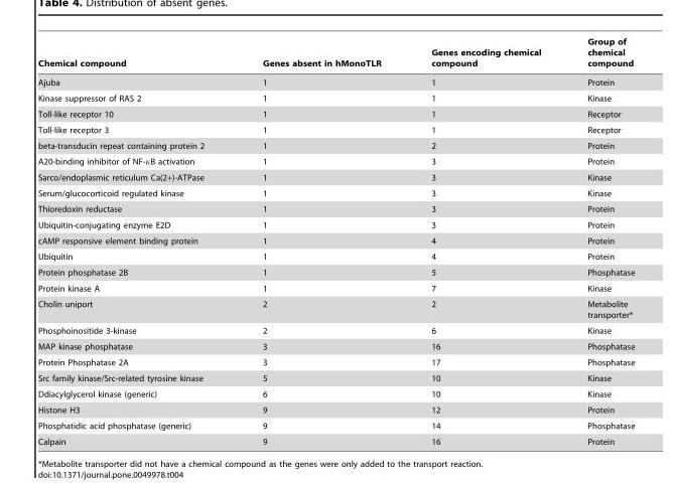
<table><thead><tr><td>Chemical compound</td><td>Genes absent in hMonoTLR</td><td>Genes encoding chemical compound</td><td>Group of chemical compound</td></tr></thead><tbody><tr><td>Ajuba</td><td>1</td><td>1</td><td>Protein</td></tr><tr><td>Kinase suppressor of RAS 2</td><td>1</td><td>1</td><td>Kinase</td></tr><tr><td>Toll-like receptor 10</td><td>1</td><td>1</td><td>Receptor</td></tr><tr><td>Toll-like receptor 3</td><td>1</td><td>1</td><td>Receptor</td></tr><tr><td>beta-transducin repeat containing protein 2</td><td>1</td><td>2</td><td>Protein</td></tr><tr><td>A20-binding inhibitor of NF-kB activation</td><td>1</td><td>3</td><td>Protein</td></tr><tr><td>Sarco/endoplasmic reticulum Ca(2+)-ATPase</td><td>1</td><td>3</td><td>Kinase</td></tr><tr><td>Serum/glucocorticoid regulated kinase</td><td>1</td><td>3</td><td>Kinase</td></tr><tr><td>Thioredoxin reductase</td><td>1</td><td>3</td><td>Protein</td></tr><tr><td>Ubiquitin-conjugating enzyme E2D</td><td>1</td><td>3</td><td>Protein</td></tr><tr><td>cAMP responsive element binding protein</td><td>1</td><td>4</td><td>Protein</td></tr><tr><td>Ubiquitin</td><td>1</td><td>4</td><td>Protein</td></tr><tr><td>Protein phosphatase 2B</td><td>1</td><td>5</td><td>Phosphatase</td></tr><tr><td>Protein kinase A</td><td>1</td><td>7</td><td>Kinase</td></tr><tr><td>Cholin uniport</td><td>2</td><td>2</td><td>Metabolite transporter*</td></tr><tr><td>Phosphoinositide 3-kinase</td><td>2</td><td>6</td><td>Kinase</td></tr><tr><td>MAP kinase phosphatase</td><td>3</td><td>16</td><td>Phosphatase</td></tr><tr><td>Protein Phosphatase 2A</td><td>3</td><td>17</td><td>Phosphatase</td></tr><tr><td>Src family kinase/Src-related tyrosine kinase</td><td>5</td><td>10</td><td>Kinase</td></tr><tr><td>Ddiacylglycerol kinase (generic)</td><td>6</td><td>10</td><td>Kinase</td></tr><tr><td>Histone H3</td><td>9</td><td>12</td><td>Protein</td></tr><tr><td>Phosphatidic acid phosphatase (generic)</td><td>9</td><td>14</td><td>Phosphatase</td></tr><tr><td>Calpain</td><td>9</td><td>16</td><td>Protein</td></tr></tbody></table>